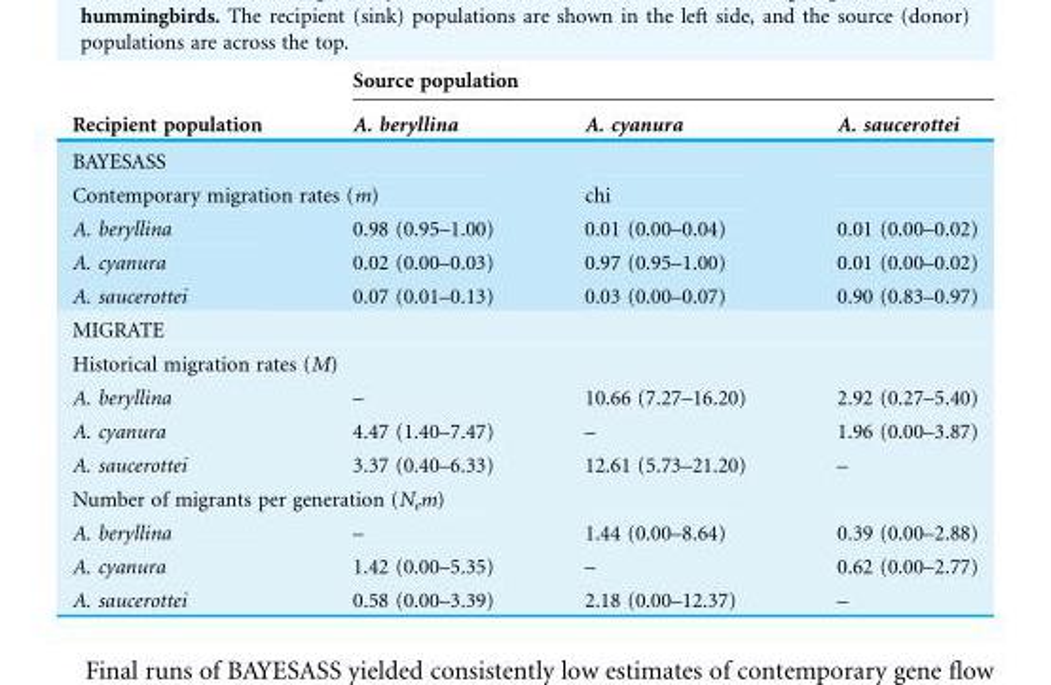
<table><thead><tr><td rowspan="2">Recipient population</td><td colspan="3">Source population</td></tr><tr><td>A. beryllina</td><td>A. cyanura</td><td>A. saucerottei</td></tr></thead><tbody><tr><td colspan="4">BAYESASS</td></tr><tr><td colspan="2">Contemporary migration rates (m)</td><td>chi</td><td></td></tr><tr><td>A. beryllina</td><td>0.98 (0.95–1.00)</td><td>0.01 (0.00–0.04)</td><td>0.01 (0.00–0.02)</td></tr><tr><td>A. cyanura</td><td>0.02 (0.00–0.03)</td><td>0.97 (0.95–1.00)</td><td>0.01 (0.00–0.02)</td></tr><tr><td>A. saucerottei</td><td>0.07 (0.01–0.13)</td><td>0.03 (0.00–0.07)</td><td>0.90 (0.83–0.97)</td></tr><tr><td colspan="4">MIGRATE</td></tr><tr><td colspan="4">Historical migration rates (M)</td></tr><tr><td>A. beryllina</td><td>–</td><td>10.66 (7.27–16.20)</td><td>2.92 (0.27–5.40)</td></tr><tr><td>A. cyanura</td><td>4.47 (1.40–7.47)</td><td>–</td><td>1.96 (0.00–3.87)</td></tr><tr><td>A. saucerottei</td><td>3.37 (0.40–6.33)</td><td>12.61 (5.73–21.20)</td><td>–</td></tr><tr><td colspan="4">Number of migrants per generation (N<sub>e</sub>m)</td></tr><tr><td>A. beryllina</td><td>–</td><td>1.44 (0.00–8.64)</td><td>0.39 (0.00–2.88)</td></tr><tr><td>A. cyanura</td><td>1.42 (0.00–5.35)</td><td>–</td><td>0.62 (0.00–2.77)</td></tr><tr><td>A. saucerottei</td><td>0.58 (0.00–3.39)</td><td>2.18 (0.00–12.37)</td><td>–</td></tr></tbody></table>